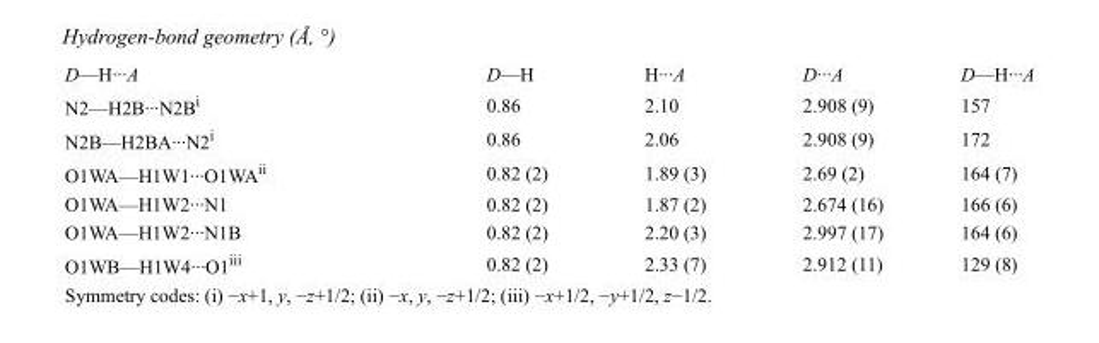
<table><tbody><tr><td>D—H···A</td><td>D—H</td><td>H···A</td><td>D···A</td><td>D—H···A</td></tr><tr><td>N2—H2B···N2B<sup>i</sup></td><td>0.86</td><td>2.10</td><td>2.908 (9)</td><td>157</td></tr><tr><td>N2B—H2BA···N2<sup>i</sup></td><td>0.86</td><td>2.06</td><td>2.908 (9)</td><td>172</td></tr><tr><td>O1WA—H1W1···O1WA<sup>ii</sup></td><td>0.82 (2)</td><td>1.89 (3)</td><td>2.69 (2)</td><td>164 (7)</td></tr><tr><td>O1WA—H1W2···N1</td><td>0.82 (2)</td><td>1.87 (2)</td><td>2.674 (16)</td><td>166 (6)</td></tr><tr><td>O1WA—H1W2···N1B</td><td>0.82 (2)</td><td>2.20 (3)</td><td>2.997 (17)</td><td>164 (6)</td></tr><tr><td>O1WB—H1W4···O1<sup>iii</sup></td><td>0.82 (2)</td><td>2.33 (7)</td><td>2.912 (11)</td><td>129 (8)</td></tr></tbody></table>